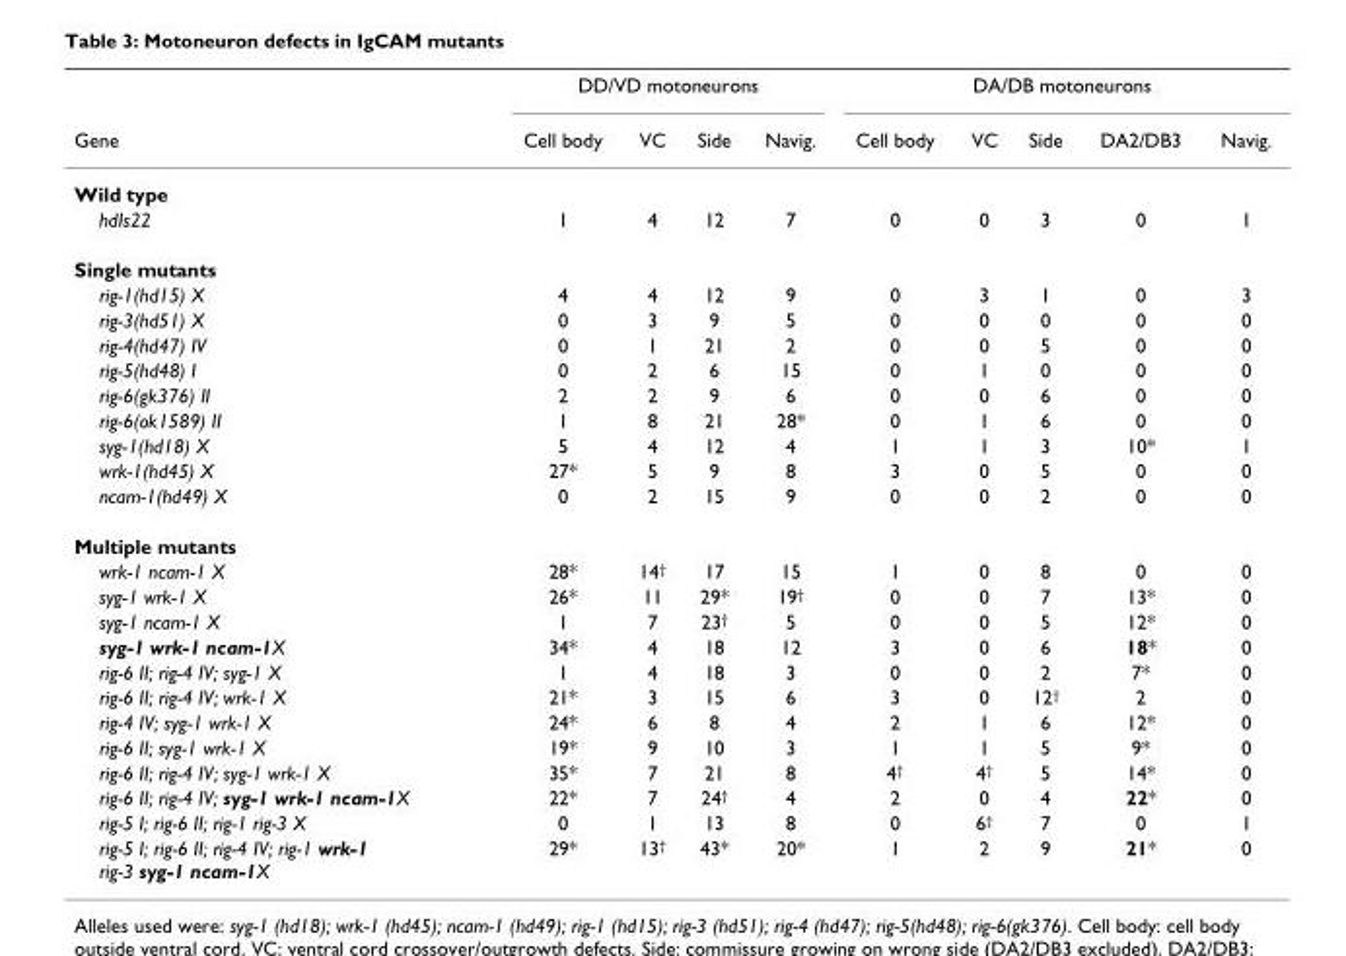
<table><thead><tr><td rowspan="2">Gene</td><td colspan="4">DD/VD motoneurons</td><td colspan="5">DA/DB motoneurons</td></tr><tr><td>Cell body</td><td>VC</td><td>Side</td><td>Navig.</td><td>Cell body</td><td>VC</td><td>Side</td><td>DA2/DB3</td><td>Navig.</td></tr></thead><tbody><tr><td colspan="10">Wild type</td></tr><tr><td>hdIs22</td><td>1</td><td>4</td><td>12</td><td>7</td><td>0</td><td>0</td><td>3</td><td>0</td><td>1</td></tr><tr><td colspan="10">Single mutants</td></tr><tr><td>rig-1(hd15) X</td><td>4</td><td>4</td><td>12</td><td>9</td><td>0</td><td>3</td><td>1</td><td>0</td><td>3</td></tr><tr><td>rig-3(hd51) X</td><td>0</td><td>3</td><td>9</td><td>5</td><td>0</td><td>0</td><td>0</td><td>0</td><td>0</td></tr><tr><td>rig-4(hd47) IV</td><td>0</td><td>1</td><td>21</td><td>2</td><td>0</td><td>0</td><td>5</td><td>0</td><td>0</td></tr><tr><td>rig-5(hd48) I</td><td>0</td><td>2</td><td>6</td><td>15</td><td>0</td><td>1</td><td>0</td><td>0</td><td>0</td></tr><tr><td>rig-6(gk376) II</td><td>2</td><td>2</td><td>9</td><td>6</td><td>0</td><td>0</td><td>6</td><td>0</td><td>0</td></tr><tr><td>rig-6(ok1589) II</td><td>1</td><td>8</td><td>21</td><td>28*</td><td>0</td><td>1</td><td>6</td><td>0</td><td>0</td></tr><tr><td>syg-1(hd18) X</td><td>5</td><td>4</td><td>12</td><td>4</td><td>1</td><td>1</td><td>3</td><td>10*</td><td>1</td></tr><tr><td>wrk-1(hd45) X</td><td>27*</td><td>5</td><td>9</td><td>8</td><td>3</td><td>0</td><td>5</td><td>0</td><td>0</td></tr><tr><td>ncam-1(hd49) X</td><td>0</td><td>2</td><td>15</td><td>9</td><td>0</td><td>0</td><td>2</td><td>0</td><td>0</td></tr><tr><td colspan="10">Multiple mutants</td></tr><tr><td>wrk-1 ncam-1 X</td><td>28*</td><td>14<sup>†</sup></td><td>17</td><td>15</td><td>1</td><td>0</td><td>8</td><td>0</td><td>0</td></tr><tr><td>syg-1 wrk-1 X</td><td>26*</td><td>11</td><td>29*</td><td>19<sup>†</sup></td><td>0</td><td>0</td><td>7</td><td>13*</td><td>0</td></tr><tr><td>syg-1 ncam-1 X</td><td>1</td><td>7</td><td>23<sup>†</sup></td><td>5</td><td>0</td><td>0</td><td>5</td><td>12*</td><td>0</td></tr><tr><td>syg-1 wrk-1 ncam-1X</td><td>34*</td><td>4</td><td>18</td><td>12</td><td>3</td><td>0</td><td>6</td><td>18*</td><td>0</td></tr><tr><td>rig-6 II; rig-4 IV; syg-1 X</td><td>1</td><td>4</td><td>18</td><td>3</td><td>0</td><td>0</td><td>2</td><td>7*</td><td>0</td></tr><tr><td>rig-6 II; rig-4 IV; wrk-1 X</td><td>21*</td><td>3</td><td>15</td><td>6</td><td>3</td><td>0</td><td>12<sup>†</sup></td><td>2</td><td>0</td></tr><tr><td>rig-4 IV; syg-1 wrk-1 X</td><td>24*</td><td>6</td><td>8</td><td>4</td><td>2</td><td>1</td><td>6</td><td>12*</td><td>0</td></tr><tr><td>rig-6 II; syg-1 wrk-1 X</td><td>19*</td><td>9</td><td>10</td><td>3</td><td>1</td><td>1</td><td>5</td><td>9*</td><td>0</td></tr><tr><td>rig-6 II; rig-4 IV; syg-1 wrk-1 X</td><td>35*</td><td>7</td><td>21</td><td>8</td><td>4<sup>†</sup></td><td>4<sup>†</sup></td><td>5</td><td>14*</td><td>0</td></tr><tr><td>rig-6 II; rig-4 IV; syg-1 wrk-1 ncam-1X</td><td>22*</td><td>7</td><td>24<sup>†</sup></td><td>4</td><td>2</td><td>0</td><td>4</td><td>22*</td><td>0</td></tr><tr><td>rig-5 I; rig-6 II; rig-1 rig-3 X</td><td>0</td><td>1</td><td>13</td><td>8</td><td>0</td><td>6<sup>†</sup></td><td>7</td><td>0</td><td>1</td></tr><tr><td>rig-5 I; rig-6 II; rig-4 IV; rig-1 wrk-1 rig-3 syg-1 ncam-1X</td><td>29*</td><td>13<sup>†</sup></td><td>43*</td><td>20*</td><td>1</td><td>2</td><td>9</td><td>21*</td><td>0</td></tr></tbody></table>